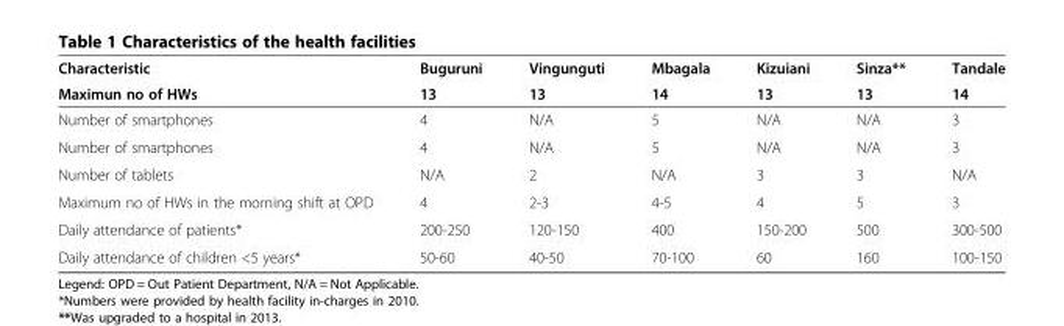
<table><thead><tr><td rowspan="2">Characteristic Maximun no of HWs</td><td rowspan="2">Buguruni 13</td><td rowspan="2">Vingunguti 13</td><td rowspan="2">Mbagala 14</td><td rowspan="2">Kizuiani 13</td><td rowspan="2">Sinza** 13</td><td rowspan="2">Tandale 14</td></tr><tr></tr></thead><tbody><tr><td>Number of smartphones</td><td>4</td><td>N/A</td><td>5</td><td>N/A</td><td>N/A</td><td>3</td></tr><tr><td>Number of smartphones</td><td>4</td><td>N/A</td><td>5</td><td>N/A</td><td>N/A</td><td>3</td></tr><tr><td>Number of tablets</td><td>N/A</td><td>2</td><td>N/A</td><td>3</td><td>3</td><td>N/A</td></tr><tr><td>Maximum no of HWs in the morning shift at OPD</td><td>4</td><td>2-3</td><td>4-5</td><td>4</td><td>5</td><td>3</td></tr><tr><td>Daily attendance of patients*</td><td>200-250</td><td>120-150</td><td>400</td><td>150-200</td><td>500</td><td>300-500</td></tr><tr><td>Daily attendance of children &lt;5 years*</td><td>50-60</td><td>40-50</td><td>70-100</td><td>60</td><td>160</td><td>100-150</td></tr></tbody></table>